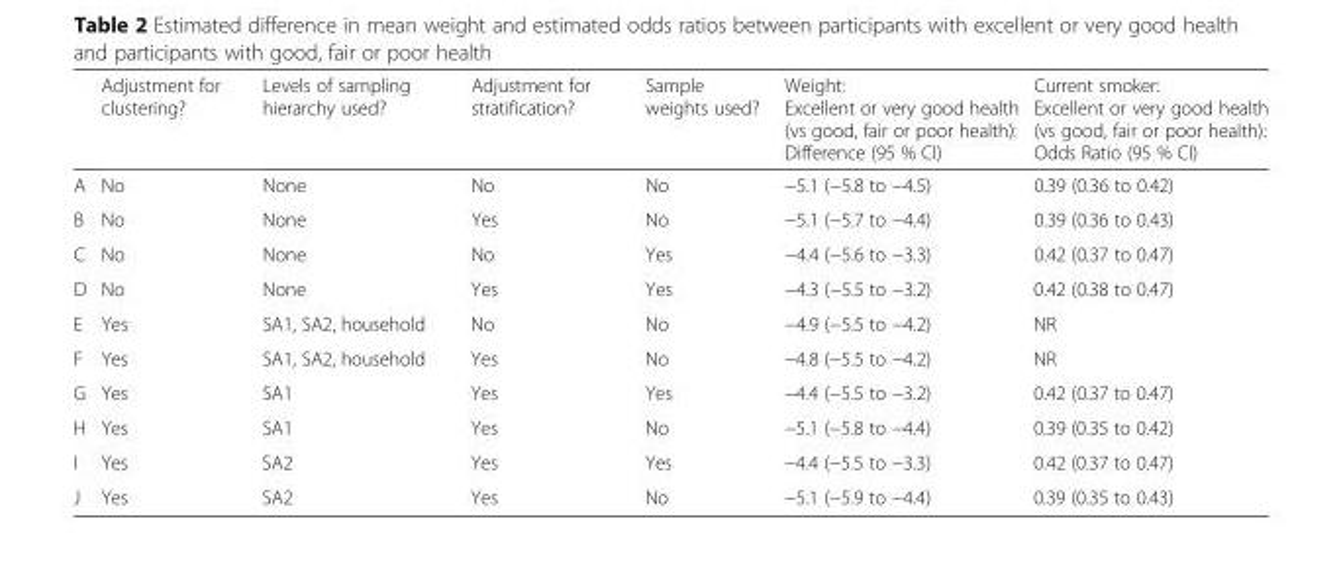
<table><thead><tr><td></td><td>Adjustment for clustering?</td><td>Levels of sampling hierarchy used?</td><td>Adjustment for stratification?</td><td>Sample weights used?</td><td>Weight: Excellent or very good health (vs good, fair or poor health): Difference (95 % CI)</td><td>Current smoker: Excellent or very good health (vs good, fair or poor health): Odds Ratio (95 % CI)</td></tr></thead><tbody><tr><td>A</td><td>No</td><td>None</td><td>No</td><td>No</td><td>−5.1 (−5.8 to −4.5)</td><td>0.39 (0.36 to 0.42)</td></tr><tr><td>B</td><td>No</td><td>None</td><td>Yes</td><td>No</td><td>−5.1 (−5.7 to −4.4)</td><td>0.39 (0.36 to 0.43)</td></tr><tr><td>C</td><td>No</td><td>None</td><td>No</td><td>Yes</td><td>−4.4 (−5.6 to −3.3)</td><td>0.42 (0.37 to 0.47)</td></tr><tr><td>D</td><td>No</td><td>None</td><td>Yes</td><td>Yes</td><td>−4.3 (−5.5 to −3.2)</td><td>0.42 (0.38 to 0.47)</td></tr><tr><td>E</td><td>Yes</td><td>SA1, SA2, household</td><td>No</td><td>No</td><td>−4.9 (−5.5 to −4.2)</td><td>NR</td></tr><tr><td>F</td><td>Yes</td><td>SA1, SA2, household</td><td>Yes</td><td>No</td><td>−4.8 (−5.5 to −4.2)</td><td>NR</td></tr><tr><td>G</td><td>Yes</td><td>SA1</td><td>Yes</td><td>Yes</td><td>−4.4 (−5.5 to −3.2)</td><td>0.42 (0.37 to 0.47)</td></tr><tr><td>H</td><td>Yes</td><td>SA1</td><td>Yes</td><td>No</td><td>−5.1 (−5.8 to −4.4)</td><td>0.39 (0.35 to 0.42)</td></tr><tr><td>I</td><td>Yes</td><td>SA2</td><td>Yes</td><td>Yes</td><td>−4.4 (−5.5 to −3.3)</td><td>0.42 (0.37 to 0.47)</td></tr><tr><td>J</td><td>Yes</td><td>SA2</td><td>Yes</td><td>No</td><td>−5.1 (−5.9 to −4.4)</td><td>0.39 (0.35 to 0.43)</td></tr></tbody></table>